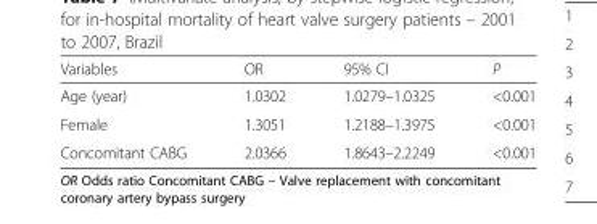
<table><thead><tr><td>Variables</td><td>OR</td><td>95% CI</td><td>P</td></tr></thead><tbody><tr><td>Age (year)</td><td>1.0302</td><td>1.0279–1.0325</td><td>&lt;0.001</td></tr><tr><td>Female</td><td>1.3051</td><td>1.2188–1.3975</td><td>&lt;0.001</td></tr><tr><td>Concomitant CABG</td><td>2.0366</td><td>1.8643–2.2249</td><td>&lt;0.001</td></tr></tbody></table>